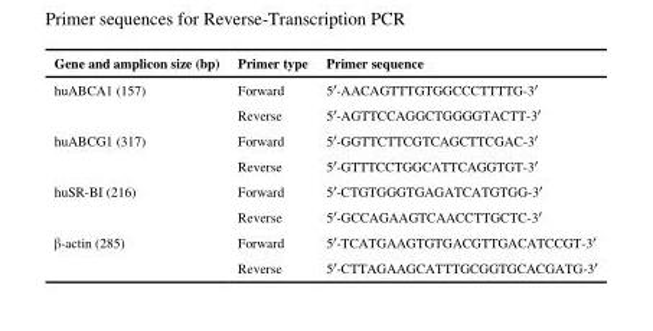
<table><thead><tr><td>Gene and amplicon size (bp)</td><td>Primer type</td><td>Primer sequence</td></tr></thead><tbody><tr><td rowspan="2">huABCA1 (157)</td><td>Forward</td><td>5′-AACAGTTTGTGGCCCTTTTG-3′</td></tr><tr><td>Reverse</td><td>5′-AGTTCCAGGCTGGGGTACTT-3′</td></tr><tr><td rowspan="2">huABCG1 (317)</td><td>Forward</td><td>5′-GGTTCTTCGTCAGCTTCGAC-3′</td></tr><tr><td>Reverse</td><td>5′-GTTTCCTGGCATTCAGGTGT-3′</td></tr><tr><td rowspan="2">huSR-BI (216)</td><td>Forward</td><td>5′-CTGTGGGTGAGATCATGTGG-3′</td></tr><tr><td>Reverse</td><td>5′-GCCAGAAGTCAACCTTGCTC-3′</td></tr><tr><td rowspan="2">β-actin (285)</td><td>Forward</td><td>5′-TCATGAAGTGTGACGTTGACATCCGT-3′</td></tr><tr><td>Reverse</td><td>5′-CTTAGAAGCATTTGCGGTGCACGATG-3′</td></tr></tbody></table>